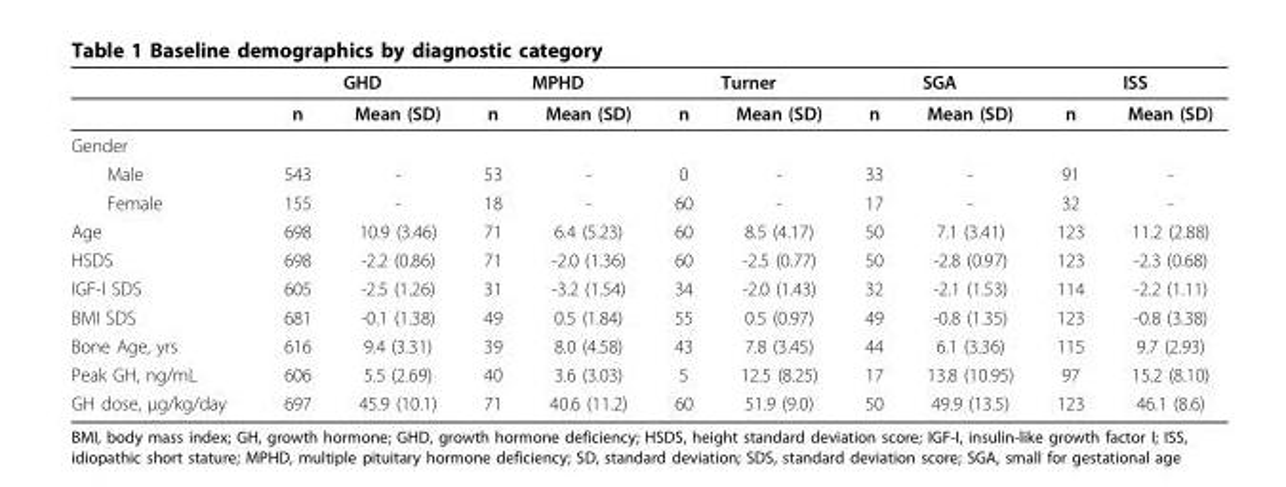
<table><thead><tr><td rowspan="2"></td><td colspan="2">GHD</td><td colspan="2">MPHD</td><td colspan="2">Turner</td><td colspan="2">SGA</td><td colspan="2">ISS</td></tr><tr><td>n</td><td>Mean (SD)</td><td>n</td><td>Mean (SD)</td><td>n</td><td>Mean (SD)</td><td>n</td><td>Mean (SD)</td><td>n</td><td>Mean (SD)</td></tr></thead><tbody><tr><td colspan="11">Gender</td></tr><tr><td>Male</td><td>543</td><td>-</td><td>53</td><td>-</td><td>0</td><td>-</td><td>33</td><td>-</td><td>91</td><td>-</td></tr><tr><td>Female</td><td>155</td><td>-</td><td>18</td><td>-</td><td>60</td><td>-</td><td>17</td><td>-</td><td>32</td><td>-</td></tr><tr><td>Age</td><td>698</td><td>10.9 (3.46)</td><td>71</td><td>6.4 (5.23)</td><td>60</td><td>8.5 (4.17)</td><td>50</td><td>7.1 (3.41)</td><td>123</td><td>11.2 (2.88)</td></tr><tr><td>HSDS</td><td>698</td><td>-2.2 (0.86)</td><td>71</td><td>-2.0 (1.36)</td><td>60</td><td>-2.5 (0.77)</td><td>50</td><td>-2.8 (0.97)</td><td>123</td><td>-2.3 (0.68)</td></tr><tr><td>IGF-I SDS</td><td>605</td><td>-2.5 (1.26)</td><td>31</td><td>-3.2 (1.54)</td><td>34</td><td>-2.0 (1.43)</td><td>32</td><td>-2.1 (1.53)</td><td>114</td><td>-2.2 (1.11)</td></tr><tr><td>BMI SDS</td><td>681</td><td>-0.1 (1.38)</td><td>49</td><td>0.5 (1.84)</td><td>55</td><td>0.5 (0.97)</td><td>49</td><td>-0.8 (1.35)</td><td>123</td><td>-0.8 (3.38)</td></tr><tr><td>Bone Age, yrs</td><td>616</td><td>9.4 (3.31)</td><td>39</td><td>8.0 (4.58)</td><td>43</td><td>7.8 (3.45)</td><td>44</td><td>6.1 (3.36)</td><td>115</td><td>9.7 (2.93)</td></tr><tr><td>Peak GH, ng/mL</td><td>606</td><td>5.5 (2.69)</td><td>40</td><td>3.6 (3.03)</td><td>5</td><td>12.5 (8.25)</td><td>17</td><td>13.8 (10.95)</td><td>97</td><td>15.2 (8.10)</td></tr><tr><td>GH dose, μg/kg/day</td><td>697</td><td>45.9 (10.1)</td><td>71</td><td>40.6 (11.2)</td><td>60</td><td>51.9 (9.0)</td><td>50</td><td>49.9 (13.5)</td><td>123</td><td>46.1 (8.6)</td></tr></tbody></table>